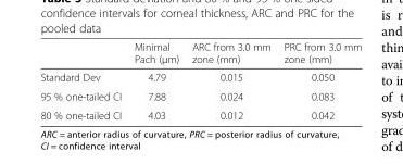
<table><thead><tr><td></td><td>Minimal Pach (μm)</td><td>ARC from 3.0 mm zone (mm)</td><td>PRC from 3.0 mm zone (mm)</td></tr></thead><tbody><tr><td>Standard Dev</td><td>4.79</td><td>0.015</td><td>0.050</td></tr><tr><td>95 % one-tailed CI</td><td>7.88</td><td>0.024</td><td>0.083</td></tr><tr><td>80 % one-tailed CI</td><td>4.03</td><td>0.012</td><td>0.042</td></tr></tbody></table>